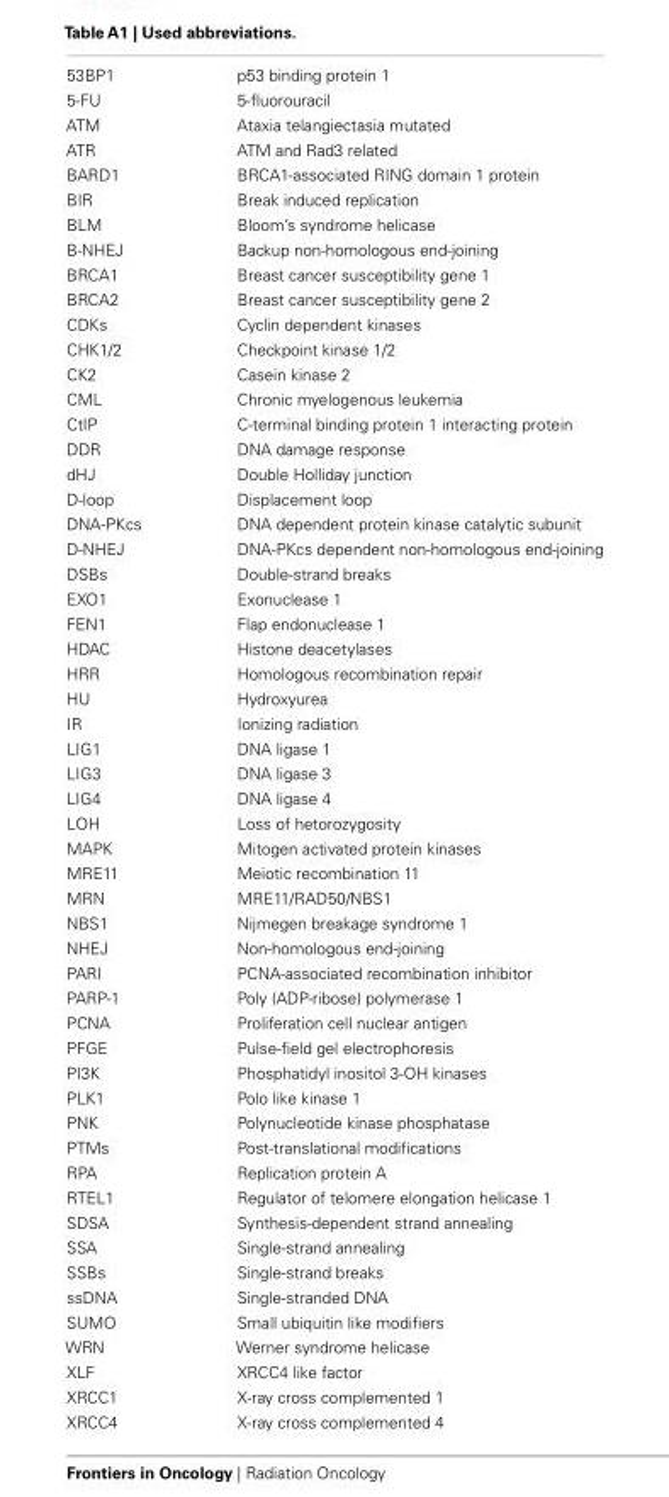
<table><tbody><tr><td>53BP1</td><td>p53 binding protein 1</td></tr><tr><td>5-FU</td><td>5-fluorouracil</td></tr><tr><td>ATM</td><td>Ataxia telangiectasia mutated</td></tr><tr><td>ATR</td><td>ATM and Rad3 related</td></tr><tr><td>BARD1</td><td>BRCA1-associated RING domain 1 protein</td></tr><tr><td>BIR</td><td>Break induced replication</td></tr><tr><td>BLM</td><td>Bloom’s syndrome helicase</td></tr><tr><td>B-NHEJ</td><td>Backup non-homologous end-joining</td></tr><tr><td>BRCA1</td><td>Breast cancer susceptibility gene 1</td></tr><tr><td>BRCA2</td><td>Breast cancer susceptibility gene 2</td></tr><tr><td>CDKs</td><td>Cyclin dependent kinases</td></tr><tr><td>CHK1/2</td><td>Checkpoint kinase 1/2</td></tr><tr><td>CK2</td><td>Casein kinase 2</td></tr><tr><td>CML</td><td>Chronic myelogenous leukemia</td></tr><tr><td>CtIP</td><td>C-terminal binding protein 1 interacting protein</td></tr><tr><td>DDR</td><td>DNA damage response</td></tr><tr><td>dHJ</td><td>Double Holliday junction</td></tr><tr><td>D-loop</td><td>Displacement loop</td></tr><tr><td>DNA-PKcs</td><td>DNA dependent protein kinase catalytic subunit</td></tr><tr><td>D-NHEJ</td><td>DNA-PKcs dependent non-homologous end-joining</td></tr><tr><td>DSBs</td><td>Double-strand breaks</td></tr><tr><td>EXO1</td><td>Exonuclease 1</td></tr><tr><td>FEN1</td><td>Flap endonuclease 1</td></tr><tr><td>HDAC</td><td>Histone deacetylases</td></tr><tr><td>HRR</td><td>Homologous recombination repair</td></tr><tr><td>HU</td><td>Hydroxyurea</td></tr><tr><td>IR</td><td>Ionizing radiation</td></tr><tr><td>LIG1</td><td>DNA ligase 1</td></tr><tr><td>LIG3</td><td>DNA ligase 3</td></tr><tr><td>LIG4</td><td>DNA ligase 4</td></tr><tr><td>LOH</td><td>Loss of hetorozygosity</td></tr><tr><td>MAPK</td><td>Mitogen activated protein kinases</td></tr><tr><td>MRE11</td><td>Meiotic recombination 11</td></tr><tr><td>MRN</td><td>MRE11/RAD50/NBS1</td></tr><tr><td>NBS1</td><td>Nijmegen breakage syndrome 1</td></tr><tr><td>NHEJ</td><td>Non-homologous end-joining</td></tr><tr><td>PARI</td><td>PCNA-associated recombination inhibitor</td></tr><tr><td>PARP-1</td><td>Poly (ADP-ribose) polymerase 1</td></tr><tr><td>PCNA</td><td>Proliferation cell nuclear antigen</td></tr><tr><td>PFGE</td><td>Pulse-field gel electrophoresis</td></tr><tr><td>PI3K</td><td>Phosphatidyl inositol 3-OH kinases</td></tr><tr><td>PLK1</td><td>Polo like kinase 1</td></tr><tr><td>PNK</td><td>Polynucleotide kinase phosphatase</td></tr><tr><td>PTMs</td><td>Post-translational modifications</td></tr><tr><td>RPA</td><td>Replication protein A</td></tr><tr><td>RTEL1</td><td>Regulator of telomere elongation helicase 1</td></tr><tr><td>SDSA</td><td>Synthesis-dependent strand annealing</td></tr><tr><td>SSA</td><td>Single-strand annealing</td></tr><tr><td>SSBs</td><td>Single-strand breaks</td></tr><tr><td>ssDNA</td><td>Single-stranded DNA</td></tr><tr><td>SUMO</td><td>Small ubiquitin like modifiers</td></tr><tr><td>WRN</td><td>Werner syndrome helicase</td></tr><tr><td>XLF</td><td>XRCC4 like factor</td></tr><tr><td>XRCC1</td><td>X-ray cross complemented 1</td></tr><tr><td>XRCC4</td><td>X-ray cross complemented 4</td></tr></tbody></table>